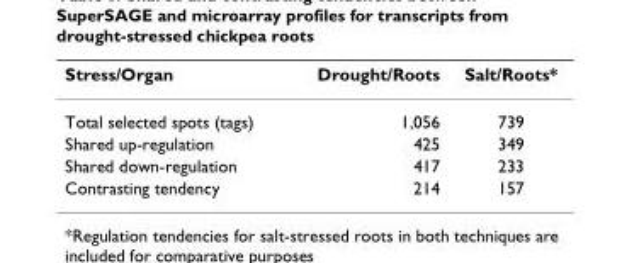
<table><thead><tr><td>Stress/Organ</td><td>Drought/Roots</td><td>Salt/Roots*</td></tr></thead><tbody><tr><td>Total selected spots (tags)</td><td>1,056</td><td>739</td></tr><tr><td>Shared up-regulation</td><td>425</td><td>349</td></tr><tr><td>Shared down-regulation</td><td>417</td><td>233</td></tr><tr><td>Contrasting tendency</td><td>214</td><td>157</td></tr></tbody></table>